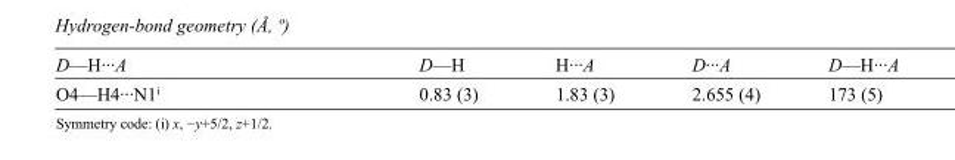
<table><tbody><tr><td>D—H···A</td><td>D—H</td><td>H···A</td><td>D···A</td><td>D—H···A</td></tr><tr><td>O4—H4···N1<sup>i</sup></td><td>0.83 (3)</td><td>1.83 (3)</td><td>2.655 (4)</td><td>173 (5)</td></tr></tbody></table>